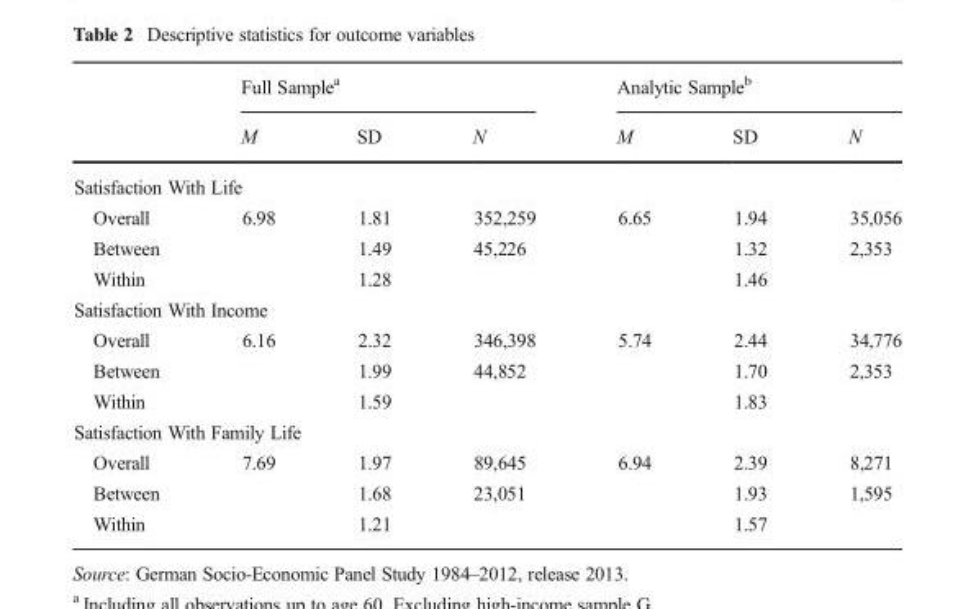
<table><thead><tr><td rowspan="2"></td><td colspan="3">Full Sample<sup>a</sup></td><td colspan="3">Analytic Sample<sup>b</sup></td></tr><tr><td>M</td><td>SD</td><td>N</td><td>M</td><td>SD</td><td>N</td></tr></thead><tbody><tr><td colspan="7">Satisfaction With Life</td></tr><tr><td>Overall</td><td>6.98</td><td>1.81</td><td>352,259</td><td>6.65</td><td>1.94</td><td>35,056</td></tr><tr><td>Between</td><td></td><td>1.49</td><td>45,226</td><td></td><td>1.32</td><td>2,353</td></tr><tr><td>Within</td><td></td><td>1.28</td><td></td><td></td><td>1.46</td><td></td></tr><tr><td colspan="7">Satisfaction With Income</td></tr><tr><td>Overall</td><td>6.16</td><td>2.32</td><td>346,398</td><td>5.74</td><td>2.44</td><td>34,776</td></tr><tr><td>Between</td><td></td><td>1.99</td><td>44,852</td><td></td><td>1.70</td><td>2,353</td></tr><tr><td>Within</td><td></td><td>1.59</td><td></td><td></td><td>1.83</td><td></td></tr><tr><td colspan="7">Satisfaction With Family Life</td></tr><tr><td>Overall</td><td>7.69</td><td>1.97</td><td>89,645</td><td>6.94</td><td>2.39</td><td>8,271</td></tr><tr><td>Between</td><td></td><td>1.68</td><td>23,051</td><td></td><td>1.93</td><td>1,595</td></tr><tr><td>Within</td><td></td><td>1.21</td><td></td><td></td><td>1.57</td><td></td></tr></tbody></table>